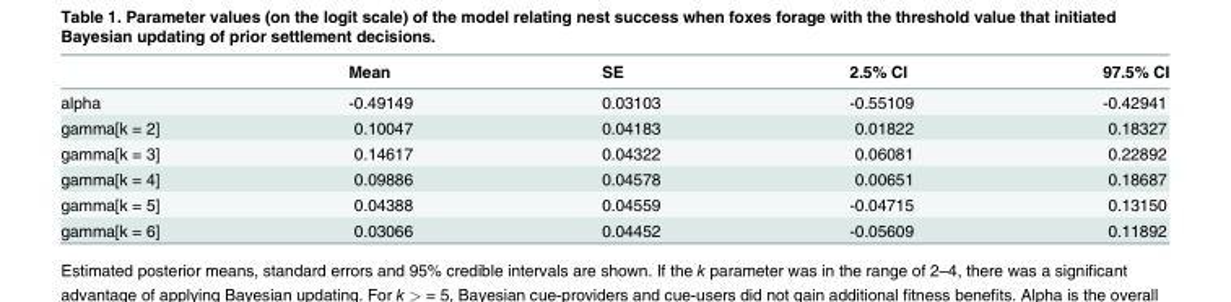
<table><thead><tr><td></td><td>Mean</td><td>SE</td><td>2.5% CI</td><td>97.5% CI</td></tr></thead><tbody><tr><td>alpha</td><td>-0.49149</td><td>0.03103</td><td>-0.55109</td><td>-0.42941</td></tr><tr><td>gamma[k = 2]</td><td>0.10047</td><td>0.04183</td><td>0.01822</td><td>0.18327</td></tr><tr><td>gamma[k = 3]</td><td>0.14617</td><td>0.04322</td><td>0.06081</td><td>0.22892</td></tr><tr><td>gamma[k = 4]</td><td>0.09886</td><td>0.04578</td><td>0.00651</td><td>0.18687</td></tr><tr><td>gamma[k = 5]</td><td>0.04388</td><td>0.04559</td><td>-0.04715</td><td>0.13150</td></tr><tr><td>gamma[k = 6]</td><td>0.03066</td><td>0.04452</td><td>-0.05609</td><td>0.11892</td></tr></tbody></table>